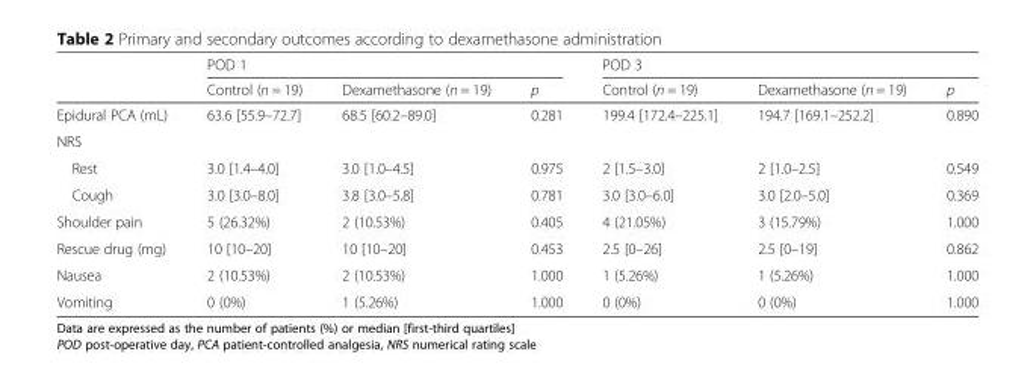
<table><thead><tr><td rowspan="2"></td><td colspan="3">POD 1</td><td colspan="3">POD 3</td></tr><tr><td>Control (n = 19)</td><td>Dexamethasone (n = 19)</td><td>p</td><td>Control (n = 19)</td><td>Dexamethasone (n = 19)</td><td>p</td></tr></thead><tbody><tr><td>Epidural PCA (mL)</td><td>63.6 [55.9–72.7]</td><td>68.5 [60.2–89.0]</td><td>0.281</td><td>199.4 [172.4–225.1]</td><td>194.7 [169.1–252.2]</td><td>0.890</td></tr><tr><td colspan="7">NRS</td></tr><tr><td>Rest</td><td>3.0 [1.4–4.0]</td><td>3.0 [1.0–4.5]</td><td>0.975</td><td>2 [1.5–3.0]</td><td>2 [1.0–2.5]</td><td>0.549</td></tr><tr><td>Cough</td><td>3.0 [3.0–8.0]</td><td>3.8 [3.0–5.8]</td><td>0.781</td><td>3.0 [3.0–6.0]</td><td>3.0 [2.0–5.0]</td><td>0.369</td></tr><tr><td>Shoulder pain</td><td>5 (26.32%)</td><td>2 (10.53%)</td><td>0.405</td><td>4 (21.05%)</td><td>3 (15.79%)</td><td>1.000</td></tr><tr><td>Rescue drug (mg)</td><td>10 [10–20]</td><td>10 [10–20]</td><td>0.453</td><td>2.5 [0–26]</td><td>2.5 [0–19]</td><td>0.862</td></tr><tr><td>Nausea</td><td>2 (10.53%)</td><td>2 (10.53%)</td><td>1.000</td><td>1 (5.26%)</td><td>1 (5.26%)</td><td>1.000</td></tr><tr><td>Vomiting</td><td>0 (0%)</td><td>1 (5.26%)</td><td>1.000</td><td>0 (0%)</td><td>0 (0%)</td><td>1.000</td></tr></tbody></table>